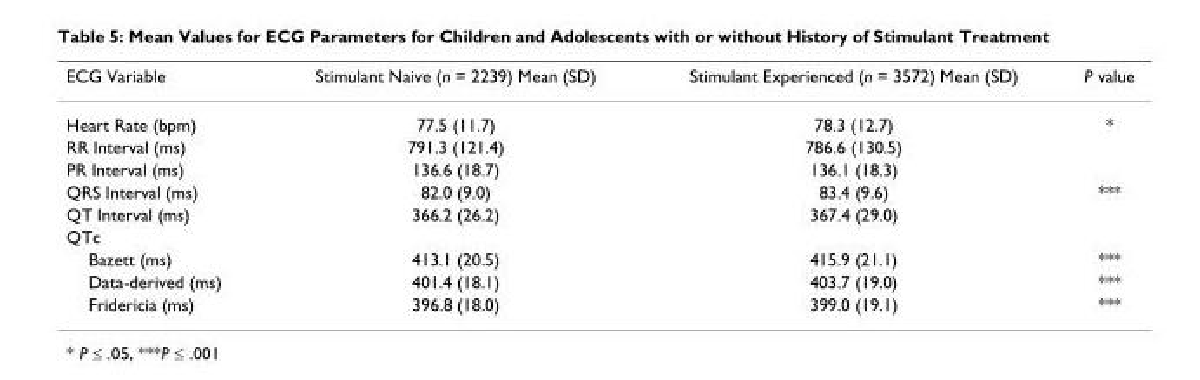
<table><thead><tr><td>ECG Variable</td><td>Stimulant Naive (n = 2239) Mean (SD)</td><td>Stimulant Experienced (n = 3572) Mean (SD)</td><td>P value</td></tr></thead><tbody><tr><td>Heart Rate (bpm)</td><td>77.5 (11.7)</td><td>78.3 (12.7)</td><td>*</td></tr><tr><td>RR Interval (ms)</td><td>791.3 (121.4)</td><td>786.6 (130.5)</td><td></td></tr><tr><td>PR Interval (ms)</td><td>136.6 (18.7)</td><td>136.1 (18.3)</td><td></td></tr><tr><td>QRS Interval (ms)</td><td>82.0 (9.0)</td><td>83.4 (9.6)</td><td>***</td></tr><tr><td>QT Interval (ms)</td><td>366.2 (26.2)</td><td>367.4 (29.0)</td><td></td></tr><tr><td colspan="4">QTc</td></tr><tr><td>Bazett (ms)</td><td>413.1 (20.5)</td><td>415.9 (21.1)</td><td>***</td></tr><tr><td>Data-derived (ms)</td><td>401.4 (18.1)</td><td>403.7 (19.0)</td><td>***</td></tr><tr><td>Fridericia (ms)</td><td>396.8 (18.0)</td><td>399.0 (19.1)</td><td>***</td></tr></tbody></table>